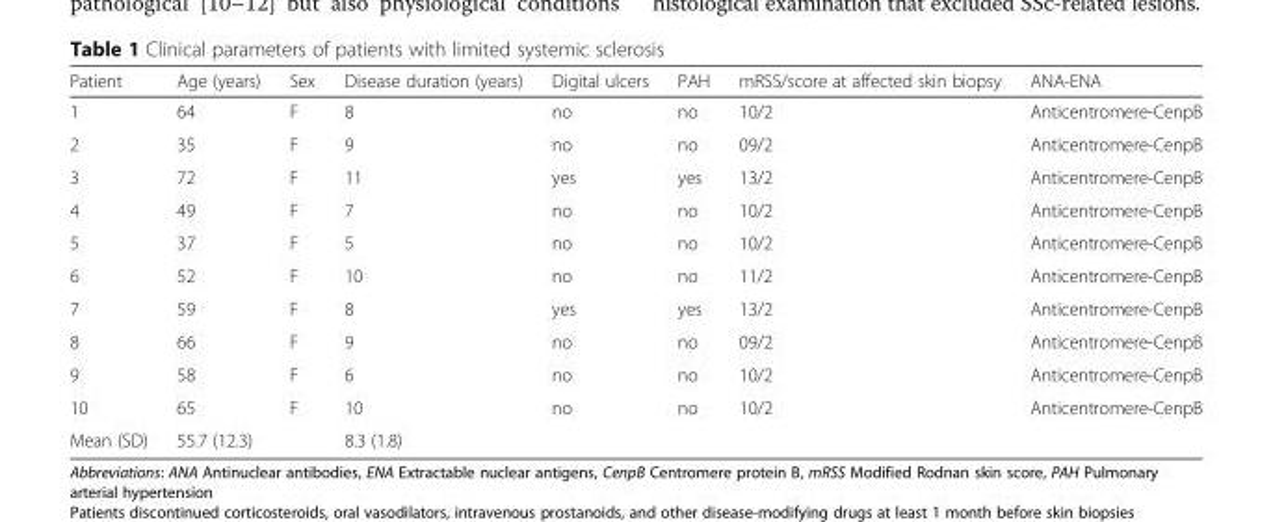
<table><thead><tr><td>Patient</td><td>Age (years)</td><td>Sex</td><td>Disease duration (years)</td><td>Digital ulcers</td><td>PAH</td><td>mRSS/score at affected skin biopsy</td><td>ANA-ENA</td></tr></thead><tbody><tr><td>1</td><td>64</td><td>F</td><td>8</td><td>no</td><td>no</td><td>10/2</td><td>Anticentromere-CenpB</td></tr><tr><td>2</td><td>35</td><td>F</td><td>9</td><td>no</td><td>no</td><td>09/2</td><td>Anticentromere-CenpB</td></tr><tr><td>3</td><td>72</td><td>F</td><td>11</td><td>yes</td><td>yes</td><td>13/2</td><td>Anticentromere-CenpB</td></tr><tr><td>4</td><td>49</td><td>F</td><td>7</td><td>no</td><td>no</td><td>10/2</td><td>Anticentromere-CenpB</td></tr><tr><td>5</td><td>37</td><td>F</td><td>5</td><td>no</td><td>no</td><td>10/2</td><td>Anticentromere-CenpB</td></tr><tr><td>6</td><td>52</td><td>F</td><td>10</td><td>no</td><td>no</td><td>11/2</td><td>Anticentromere-CenpB</td></tr><tr><td>7</td><td>59</td><td>F</td><td>8</td><td>yes</td><td>yes</td><td>13/2</td><td>Anticentromere-CenpB</td></tr><tr><td>8</td><td>66</td><td>F</td><td>9</td><td>no</td><td>no</td><td>09/2</td><td>Anticentromere-CenpB</td></tr><tr><td>9</td><td>58</td><td>F</td><td>6</td><td>no</td><td>no</td><td>10/2</td><td>Anticentromere-CenpB</td></tr><tr><td>10</td><td>65</td><td>F</td><td>10</td><td>no</td><td>no</td><td>10/2</td><td>Anticentromere-CenpB</td></tr><tr><td>Mean (SD)</td><td>55.7 (12.3)</td><td></td><td>8.3 (1.8)</td><td></td><td></td><td></td><td></td></tr></tbody></table>